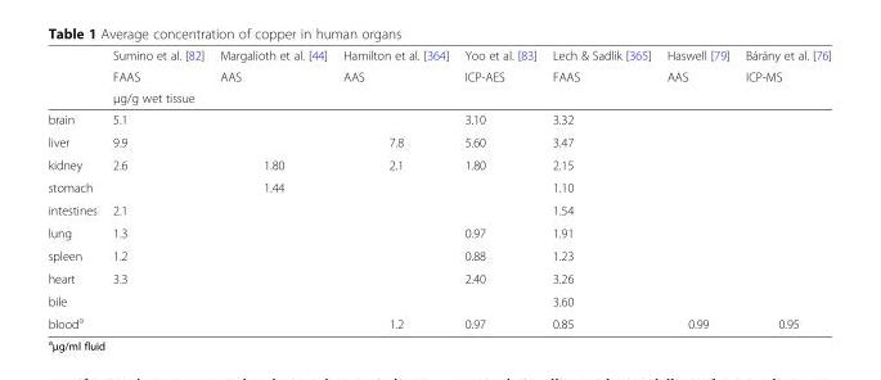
<table><thead><tr><td rowspan="3"></td><td rowspan="2">Sumino et al. [82] FAAS</td><td rowspan="2">Margalioth et al. [44] AAS</td><td rowspan="2">Hamilton et al. [364] AAS</td><td rowspan="2">Yoo et al. [83] ICP-AES</td><td rowspan="2">Lech &amp; Sadlik [365] FAAS</td><td rowspan="2">Haswell [79] AAS</td><td rowspan="2">Bárány et al. [76] ICP-MS</td></tr><tr></tr><tr><td colspan="7">μg/g wet tissue</td></tr></thead><tbody><tr><td>brain</td><td>5.1</td><td></td><td></td><td>3.10</td><td>3.32</td><td></td><td></td></tr><tr><td>liver</td><td>9.9</td><td></td><td>7.8</td><td>5.60</td><td>3.47</td><td></td><td></td></tr><tr><td>kidney</td><td>2.6</td><td>1.80</td><td>2.1</td><td>1.80</td><td>2.15</td><td></td><td></td></tr><tr><td>stomach</td><td></td><td>1.44</td><td></td><td></td><td>1.10</td><td></td><td></td></tr><tr><td>intestines</td><td>2.1</td><td></td><td></td><td></td><td>1.54</td><td></td><td></td></tr><tr><td>lung</td><td>1.3</td><td></td><td></td><td>0.97</td><td>1.91</td><td></td><td></td></tr><tr><td>spleen</td><td>1.2</td><td></td><td></td><td>0.88</td><td>1.23</td><td></td><td></td></tr><tr><td>heart</td><td>3.3</td><td></td><td></td><td>2.40</td><td>3.26</td><td></td><td></td></tr><tr><td>bile</td><td></td><td></td><td></td><td></td><td>3.60</td><td></td><td></td></tr><tr><td>blood<sup>a</sup></td><td></td><td></td><td>1.2</td><td>0.97</td><td>0.85</td><td>0.99</td><td>0.95</td></tr></tbody></table>